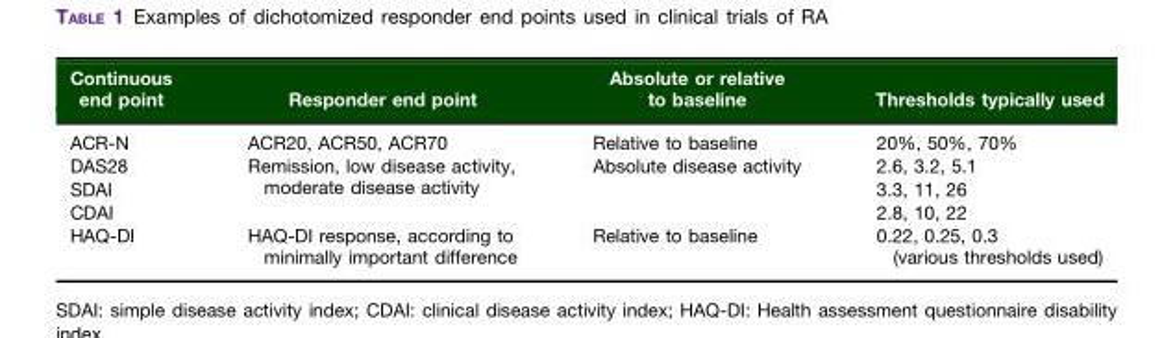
<table><thead><tr><td>Continuous end point</td><td>Responder end point</td><td>Absolute or relative to baseline</td><td>Thresholds typically used</td></tr></thead><tbody><tr><td>ACR-N</td><td>ACR20, ACR50, ACR70</td><td>Relative to baseline</td><td>20%, 50%, 70%</td></tr><tr><td>DAS28</td><td rowspan="3">Remission, low disease activity, moderate disease activity</td><td rowspan="3">Absolute disease activity</td><td>2.6, 3.2, 5.1</td></tr><tr><td>SDAI</td><td>3.3, 11, 26</td></tr><tr><td>CDAI</td><td>2.8, 10, 22</td></tr><tr><td>HAQ-DI</td><td>HAQ-DI response, according to minimally important difference</td><td>Relative to baseline</td><td>0.22, 0.25, 0.3 (various thresholds used)</td></tr></tbody></table>